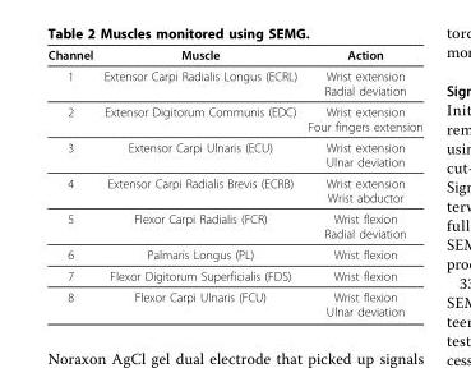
<table><thead><tr><td>Channel</td><td>Muscle</td><td>Action</td></tr></thead><tbody><tr><td>1</td><td>Extensor Carpi Radialis Longus (ECRL)</td><td>Wrist extension Radial deviation</td></tr><tr><td>2</td><td>Extensor Digitorum Communis (EDC)</td><td>Wrist extension Four fingers extension</td></tr><tr><td>3</td><td>Extensor Carpi Ulnaris (ECU)</td><td>Wrist extension Ulnar deviation</td></tr><tr><td>4</td><td>Extensor Carpi Radialis Brevis (ECRB)</td><td>Wrist extension Wrist abductor</td></tr><tr><td>5</td><td>Flexor Carpi Radialis (FCR)</td><td>Wrist flexion Radial deviation</td></tr><tr><td>6</td><td>Palmaris Longus (PL)</td><td>Wrist flexion</td></tr><tr><td>7</td><td>Flexor Digitorum Superficialis (FDS)</td><td>Wrist flexion</td></tr><tr><td>8</td><td>Flexor Carpi Ulnaris (FCU)</td><td>Wrist flexion Ulnar deviation</td></tr></tbody></table>